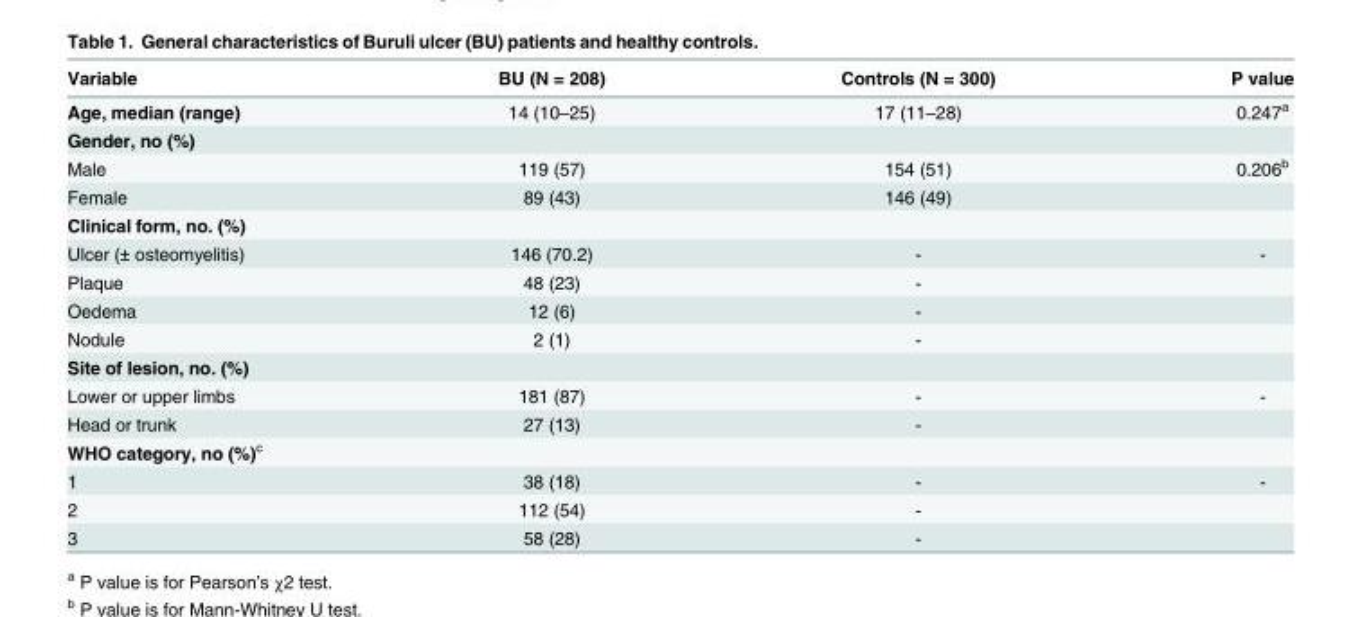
<table><thead><tr><td>Variable</td><td>BU (N = 208)</td><td>Controls (N = 300)</td><td>P value</td></tr></thead><tbody><tr><td>Age, median (range)</td><td>14 (10–25)</td><td>17 (11–28)</td><td>0.247<sup>a</sup></td></tr><tr><td colspan="4">Gender, no (%)</td></tr><tr><td>Male</td><td>119 (57)</td><td>154 (51)</td><td>0.206<sup>b</sup></td></tr><tr><td>Female</td><td>89 (43)</td><td>146 (49)</td><td></td></tr><tr><td colspan="4">Clinical form, no. (%)</td></tr><tr><td>Ulcer (± osteomyelitis)</td><td>146 (70.2)</td><td>-</td><td>-</td></tr><tr><td>Plaque</td><td>48 (23)</td><td>-</td><td></td></tr><tr><td>Oedema</td><td>12 (6)</td><td>-</td><td></td></tr><tr><td>Nodule</td><td>2 (1)</td><td>-</td><td></td></tr><tr><td colspan="4">Site of lesion, no. (%)</td></tr><tr><td>Lower or upper limbs</td><td>181 (87)</td><td>-</td><td>-</td></tr><tr><td>Head or trunk</td><td>27 (13)</td><td>-</td><td></td></tr><tr><td colspan="4">WHO category, no (%)<sup>c</sup></td></tr><tr><td>1</td><td>38 (18)</td><td>-</td><td>-</td></tr><tr><td>2</td><td>112 (54)</td><td>-</td><td></td></tr><tr><td>3</td><td>58 (28)</td><td>-</td><td></td></tr></tbody></table>